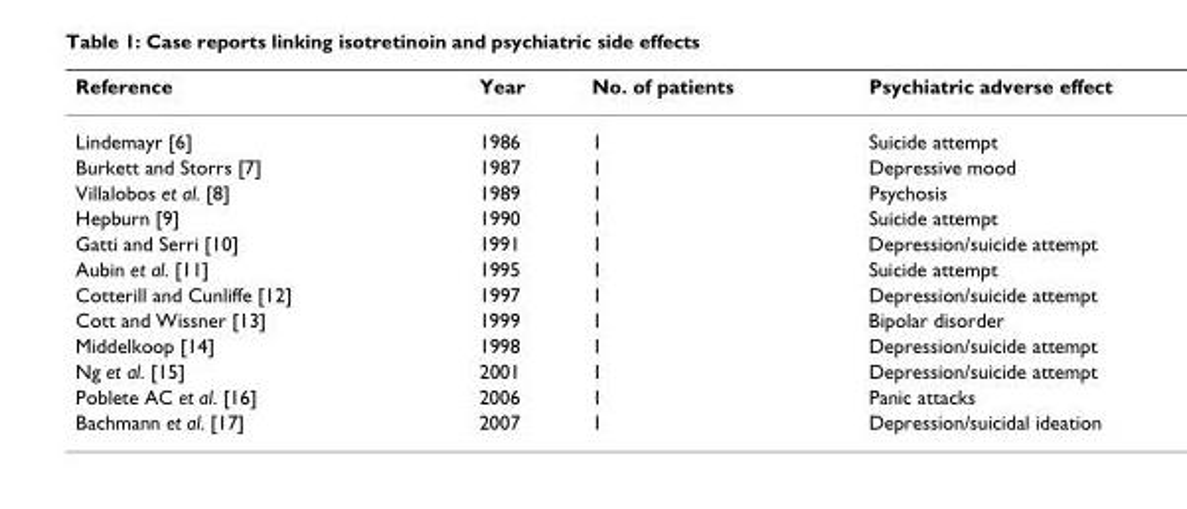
<table><thead><tr><td>Reference</td><td>Year</td><td>No. of patients</td><td>Psychiatric adverse effect</td></tr></thead><tbody><tr><td>Lindemayr [6]</td><td>1986</td><td>1</td><td>Suicide attempt</td></tr><tr><td>Burkett and Storrs [7]</td><td>1987</td><td>1</td><td>Depressive mood</td></tr><tr><td>Villalobos et al. [8]</td><td>1989</td><td>1</td><td>Psychosis</td></tr><tr><td>Hepburn [9]</td><td>1990</td><td>1</td><td>Suicide attempt</td></tr><tr><td>Gatti and Serri [10]</td><td>1991</td><td>1</td><td>Depression/suicide attempt</td></tr><tr><td>Aubin et al. [11]</td><td>1995</td><td>1</td><td>Suicide attempt</td></tr><tr><td>Cotterill and Cunliffe [12]</td><td>1997</td><td>1</td><td>Depression/suicide attempt</td></tr><tr><td>Cott and Wissner [13]</td><td>1999</td><td>1</td><td>Bipolar disorder</td></tr><tr><td>Middelkoop [14]</td><td>1998</td><td>1</td><td>Depression/suicide attempt</td></tr><tr><td>Ng et al. [15]</td><td>2001</td><td>1</td><td>Depression/suicide attempt</td></tr><tr><td>Poblete AC et al. [16]</td><td>2006</td><td>1</td><td>Panic attacks</td></tr><tr><td>Bachmann et al. [17]</td><td>2007</td><td>1</td><td>Depression/suicidal ideation</td></tr></tbody></table>